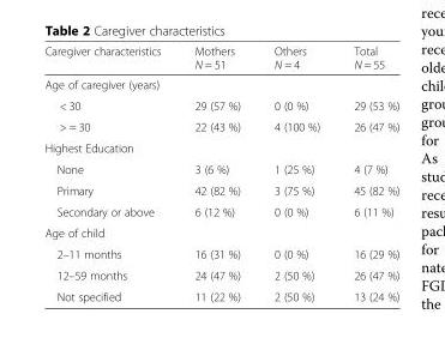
<table><thead><tr><td>Caregiver characteristics</td><td>Mothers N = 51</td><td>Others N = 4</td><td>Total N = 55</td></tr></thead><tbody><tr><td colspan="4">Age of caregiver (years)</td></tr><tr><td>&lt; 30</td><td>29 (57 %)</td><td>0 (0 %)</td><td>29 (53 %)</td></tr><tr><td>&gt; = 30</td><td>22 (43 %)</td><td>4 (100 %)</td><td>26 (47 %)</td></tr><tr><td colspan="4">Highest Education</td></tr><tr><td>None</td><td>3 (6 %)</td><td>1 (25 %)</td><td>4 (7 %)</td></tr><tr><td>Primary</td><td>42 (82 %)</td><td>3 (75 %)</td><td>45 (82 %)</td></tr><tr><td>Secondary or above</td><td>6 (12 %)</td><td>0 (0 %)</td><td>6 (11 %)</td></tr><tr><td colspan="4">Age of child</td></tr><tr><td>2–11 months</td><td>16 (31 %)</td><td>0 (0 %)</td><td>16 (29 %)</td></tr><tr><td>12–59 months</td><td>24 (47 %)</td><td>2 (50 %)</td><td>26 (47 %)</td></tr><tr><td>Not specified</td><td>11 (22 %)</td><td>2 (50 %)</td><td>13 (24 %)</td></tr></tbody></table>